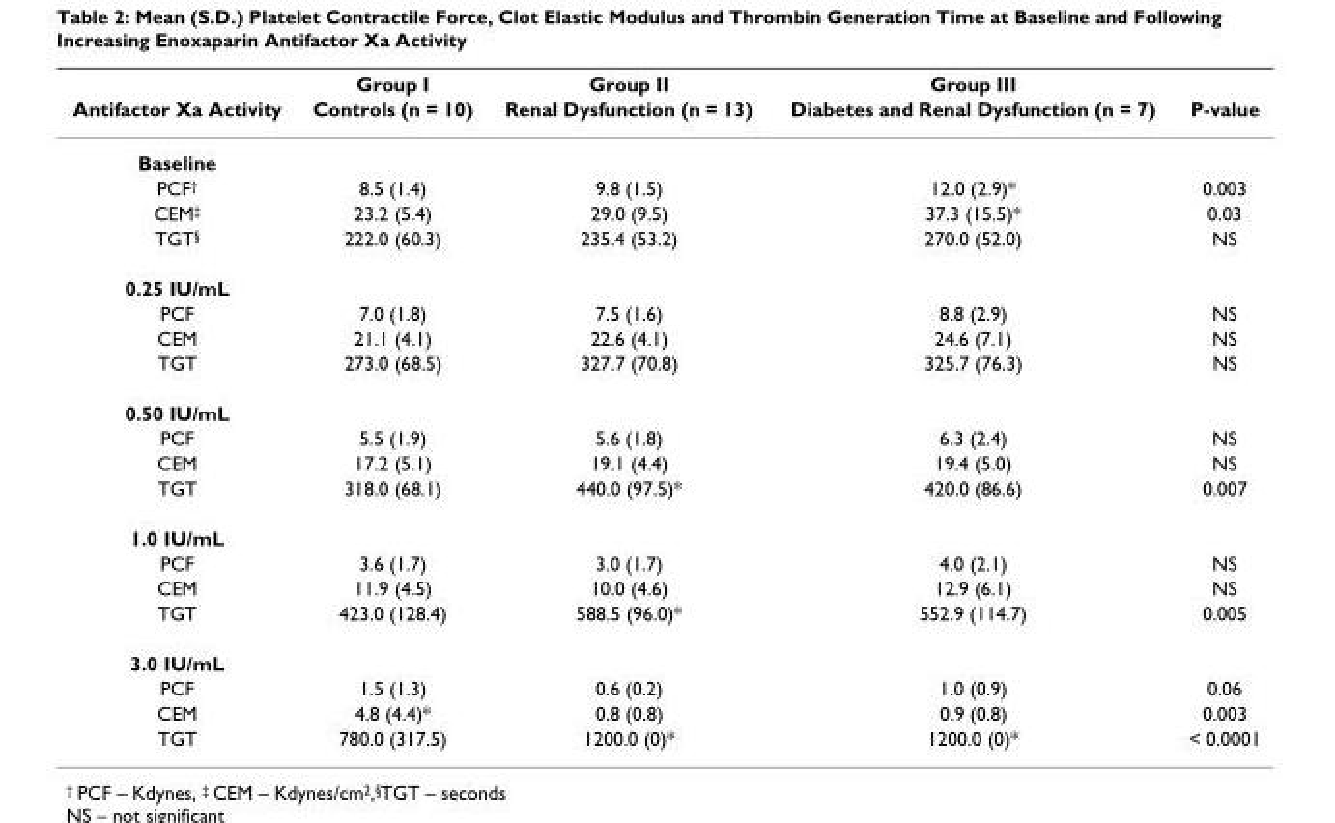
<table><thead><tr><td rowspan="2">Antifactor Xa Activity</td><td rowspan="2">Group I Controls (n = 10)</td><td rowspan="2">Group II Renal Dysfunction (n = 13)</td><td rowspan="2">Group III Diabetes and Renal Dysfunction (n = 7)</td><td rowspan="2">P-value</td></tr><tr></tr></thead><tbody><tr><td colspan="5">Baseline</td></tr><tr><td>PCF<sup>†</sup></td><td>8.5 (1.4)</td><td>9.8 (1.5)</td><td>12.0 (2.9)*</td><td>0.003</td></tr><tr><td>CEM<sup>‡</sup></td><td>23.2 (5.4)</td><td>29.0 (9.5)</td><td>37.3 (15.5)*</td><td>0.03</td></tr><tr><td>TGT<sup>§</sup></td><td>222.0 (60.3)</td><td>235.4 (53.2)</td><td>270.0 (52.0)</td><td>NS</td></tr><tr><td colspan="5">0.25 IU/mL</td></tr><tr><td>PCF</td><td>7.0 (1.8)</td><td>7.5 (1.6)</td><td>8.8 (2.9)</td><td>NS</td></tr><tr><td>CEM</td><td>21.1 (4.1)</td><td>22.6 (4.1)</td><td>24.6 (7.1)</td><td>NS</td></tr><tr><td>TGT</td><td>273.0 (68.5)</td><td>327.7 (70.8)</td><td>325.7 (76.3)</td><td>NS</td></tr><tr><td colspan="5">0.50 IU/mL</td></tr><tr><td>PCF</td><td>5.5 (1.9)</td><td>5.6 (1.8)</td><td>6.3 (2.4)</td><td>NS</td></tr><tr><td>CEM</td><td>17.2 (5.1)</td><td>19.1 (4.4)</td><td>19.4 (5.0)</td><td>NS</td></tr><tr><td>TGT</td><td>318.0 (68.1)</td><td>440.0 (97.5)*</td><td>420.0 (86.6)</td><td>0.007</td></tr><tr><td colspan="5">1.0 IU/mL</td></tr><tr><td>PCF</td><td>3.6 (1.7)</td><td>3.0 (1.7)</td><td>4.0 (2.1)</td><td>NS</td></tr><tr><td>CEM</td><td>11.9 (4.5)</td><td>10.0 (4.6)</td><td>12.9 (6.1)</td><td>NS</td></tr><tr><td>TGT</td><td>423.0 (128.4)</td><td>588.5 (96.0)*</td><td>552.9 (114.7)</td><td>0.005</td></tr><tr><td colspan="5">3.0 IU/mL</td></tr><tr><td>PCF</td><td>1.5 (1.3)</td><td>0.6 (0.2)</td><td>1.0 (0.9)</td><td>0.06</td></tr><tr><td>CEM</td><td>4.8 (4.4)*</td><td>0.8 (0.8)</td><td>0.9 (0.8)</td><td>0.003</td></tr><tr><td>TGT</td><td>780.0 (317.5)</td><td>1200.0 (0)*</td><td>1200.0 (0)*</td><td>&lt; 0.0001</td></tr></tbody></table>